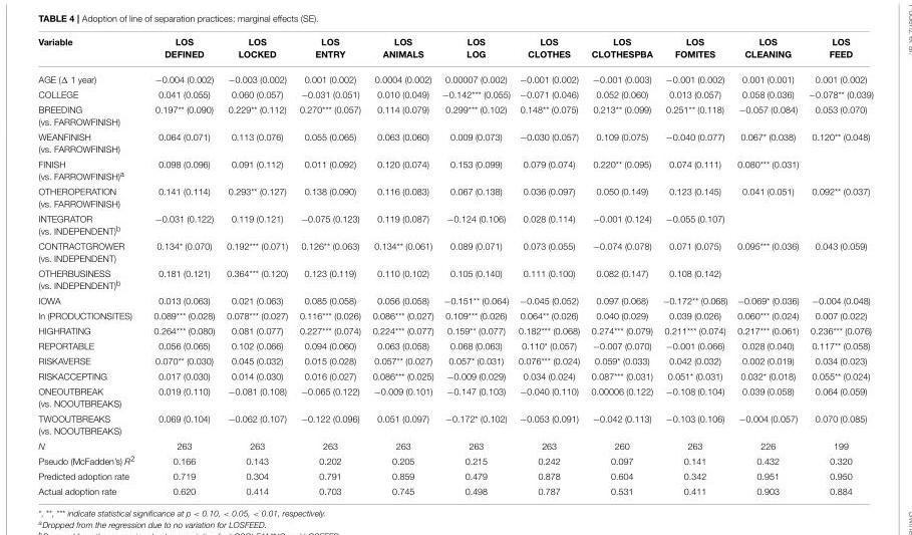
<table><thead><tr><td>Variable</td><td>LOS DEFINED</td><td>LOS LOCKED</td><td>LOS ENTRY</td><td>LOS ANIMALS</td><td>LOS LOG</td><td>LOS CLOTHES</td><td>LOS CLOTHESPBA</td><td>LOS FOMITES</td><td>LOS CLEANING</td><td>LOS FEED</td></tr></thead><tbody><tr><td>AGE (Δ 1 year)</td><td>−0.004 (0.002)</td><td>−0.003 (0.002)</td><td>0.001 (0.002)</td><td>0.0004 (0.002)</td><td>0.00007 (0.002)</td><td>−0.001 (0.002)</td><td>−0.001 (0.003)</td><td>−0.001 (0.002)</td><td>0.001 (0.001)</td><td>0.001 (0.002)</td></tr><tr><td>COLLEGE</td><td>0.041 (0.055)</td><td>0.060 (0.057)</td><td>−0.031 (0.051)</td><td>0.010 (0.049)</td><td>−0.142*** (0.055)</td><td>−0.071 (0.046)</td><td>0.052 (0.060)</td><td>0.013 (0.057)</td><td>0.058 (0.036)</td><td>−0.078** (0.039)</td></tr><tr><td>BREEDING (vs. FARROWFINISH)</td><td>0.197** (0.090)</td><td>0.229** (0.112)</td><td>0.270*** (0.057)</td><td>0.114 (0.079)</td><td>0.299*** (0.102)</td><td>0.148** (0.075)</td><td>0.213** (0.099)</td><td>0.251** (0.118)</td><td>−0.057 (0.084)</td><td>0.053 (0.070)</td></tr><tr><td>WEANFINISH (vs. FARROWFINISH)</td><td>0.064 (0.071)</td><td>0.113 (0.076)</td><td>0.055 (0.065)</td><td>0.063 (0.060)</td><td>0.009 (0.073)</td><td>−0.030 (0.057)</td><td>0.109 (0.075)</td><td>−0.040 (0.077)</td><td>0.067* (0.038)</td><td>0.120** (0.048)</td></tr><tr><td>FINISH (vs. FARROWFINISH)<sup>a</sup></td><td>0.098 (0.096)</td><td>0.091 (0.112)</td><td>0.011 (0.092)</td><td>0.120 (0.074)</td><td>0.153 (0.099)</td><td>0.079 (0.074)</td><td>0.220** (0.095)</td><td>0.074 (0.111)</td><td>0.080*** (0.031)</td><td></td></tr><tr><td>OTHEROPERATION (vs. FARROWFINISH)</td><td>0.141 (0.114)</td><td>0.293** (0.127)</td><td>0.138 (0.090)</td><td>0.116 (0.083)</td><td>0.067 (0.138)</td><td>0.036 (0.097)</td><td>0.050 (0.149)</td><td>0.123 (0.145)</td><td>0.041 (0.051)</td><td>0.092** (0.037)</td></tr><tr><td>INTEGRATOR (vs. INDEPENDENT)<sup>b</sup></td><td>−0.031 (0.122)</td><td>0.119 (0.121)</td><td>−0.075 (0.123)</td><td>0.119 (0.087)</td><td>−0.124 (0.106)</td><td>0.028 (0.114)</td><td>−0.001 (0.124)</td><td>−0.055 (0.107)</td><td></td><td></td></tr><tr><td>CONTRACTGROWER (vs. INDEPENDENT)</td><td>0.134* (0.070)</td><td>0.192*** (0.071)</td><td>0.126** (0.063)</td><td>0.134** (0.061)</td><td>0.089 (0.071)</td><td>0.073 (0.055)</td><td>−0.074 (0.078)</td><td>0.071 (0.075)</td><td>0.095*** (0.036)</td><td>0.043 (0.059)</td></tr><tr><td>OTHERBUSINESS (vs. INDEPENDENT)<sup>b</sup></td><td>0.181 (0.121)</td><td>0.364*** (0.120)</td><td>0.123 (0.119)</td><td>0.110 (0.102)</td><td>0.105 (0.140)</td><td>0.111 (0.100)</td><td>0.082 (0.147)</td><td>0.108 (0.142)</td><td></td><td></td></tr><tr><td>IOWA</td><td>0.013 (0.063)</td><td>0.021 (0.063)</td><td>0.085 (0.058)</td><td>0.056 (0.058)</td><td>−0.151** (0.064)</td><td>−0.045 (0.052)</td><td>0.097 (0.068)</td><td>−0.172** (0.068)</td><td>−0.069* (0.036)</td><td>−0.004 (0.048)</td></tr><tr><td>ln (PRODUCTIONSITES)</td><td>0.089*** (0.028)</td><td>0.078*** (0.027)</td><td>0.116*** (0.026)</td><td>0.086*** (0.027)</td><td>0.109*** (0.026)</td><td>0.064** (0.026)</td><td>0.040 (0.029)</td><td>0.039 (0.026)</td><td>0.060*** (0.024)</td><td>0.007 (0.022)</td></tr><tr><td>HIGHRATING</td><td>0.264*** (0.080)</td><td>0.081 (0.077)</td><td>0.227*** (0.074)</td><td>0.224*** (0.077)</td><td>0.159** (0.077)</td><td>0.182*** (0.068)</td><td>0.274*** (0.079)</td><td>0.211*** (0.074)</td><td>0.217*** (0.061)</td><td>0.236*** (0.076)</td></tr><tr><td>REPORTABLE</td><td>0.056 (0.065)</td><td>0.102 (0.066)</td><td>0.094 (0.060)</td><td>0.063 (0.058)</td><td>0.068 (0.063)</td><td>0.110* (0.057)</td><td>−0.007 (0.070)</td><td>−0.001 (0.066)</td><td>0.028 (0.040)</td><td>0.117** (0.058)</td></tr><tr><td>RISKAVERSE</td><td>0.070** (0.030)</td><td>0.045 (0.032)</td><td>0.015 (0.028)</td><td>0.057** (0.027)</td><td>0.057* (0.031)</td><td>0.076*** (0.024)</td><td>0.059* (0.033)</td><td>0.042 (0.032)</td><td>0.002 (0.019)</td><td>0.034 (0.023)</td></tr><tr><td>RISKACCEPTING</td><td>0.017 (0.030)</td><td>0.014 (0.030)</td><td>0.016 (0.027)</td><td>0.086*** (0.025)</td><td>−0.009 (0.029)</td><td>0.034 (0.024)</td><td>0.087*** (0.031)</td><td>0.051* (0.031)</td><td>0.032* (0.018)</td><td>0.055** (0.024)</td></tr><tr><td>ONEOUTBREAK (vs. NOOUTBREAKS)</td><td>0.019 (0.110)</td><td>−0.081 (0.108)</td><td>−0.065 (0.122)</td><td>−0.009 (0.101)</td><td>−0.147 (0.103)</td><td>−0.040 (0.110)</td><td>0.00006 (0.122)</td><td>−0.108 (0.104)</td><td>0.039 (0.058)</td><td>0.064 (0.059)</td></tr><tr><td>TWOOUTBREAKS (vs. NOOUTBREAKS)</td><td>0.069 (0.104)</td><td>−0.062 (0.107)</td><td>−0.122 (0.096)</td><td>0.051 (0.097)</td><td>−0.172* (0.102)</td><td>−0.053 (0.091)</td><td>−0.042 (0.113)</td><td>−0.103 (0.106)</td><td>−0.004 (0.057)</td><td>0.070 (0.085)</td></tr><tr><td>N</td><td>263</td><td>263</td><td>263</td><td>263</td><td>263</td><td>263</td><td>260</td><td>263</td><td>226</td><td>199</td></tr><tr><td>Pseudo (McFadden’s) R<sup>2</sup></td><td>0.166</td><td>0.143</td><td>0.202</td><td>0.205</td><td>0.215</td><td>0.242</td><td>0.097</td><td>0.141</td><td>0.432</td><td>0.320</td></tr><tr><td>Predicted adoption rate</td><td>0.719</td><td>0.304</td><td>0.791</td><td>0.859</td><td>0.479</td><td>0.878</td><td>0.604</td><td>0.342</td><td>0.951</td><td>0.950</td></tr><tr><td>Actual adoption rate</td><td>0.620</td><td>0.414</td><td>0.703</td><td>0.745</td><td>0.498</td><td>0.787</td><td>0.531</td><td>0.411</td><td>0.903</td><td>0.884</td></tr></tbody></table>